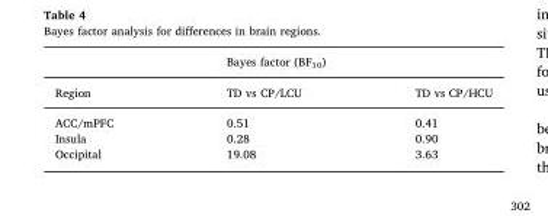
<table><thead><tr><td rowspan="2">Region</td><td colspan="2">Bayes factor (BF<sub>10</sub>)</td></tr><tr><td>TD vs CP/LCU</td><td>TD vs CP/HCU</td></tr></thead><tbody><tr><td>ACC/mPFC</td><td>0.51</td><td>0.41</td></tr><tr><td>Insula</td><td>0.28</td><td>0.90</td></tr><tr><td>Occipital</td><td>19.08</td><td>3.63</td></tr></tbody></table>